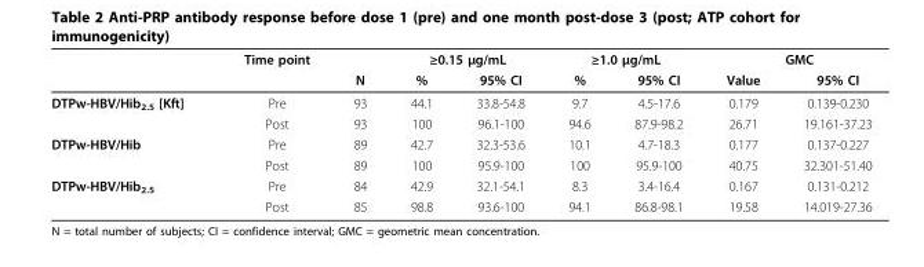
<table><thead><tr><td rowspan="2"></td><td rowspan="2">Time point</td><td rowspan="2">N</td><td colspan="2">≥0.15 μg/mL</td><td colspan="2">≥1.0 μg/mL</td><td colspan="2">GMC</td></tr><tr><td>%</td><td>95% CI</td><td>%</td><td>95% CI</td><td>Value</td><td>95% CI</td></tr></thead><tbody><tr><td rowspan="2">DTPw-HBV/Hib<sub>2.5</sub> [Kft]</td><td>Pre</td><td>93</td><td>44.1</td><td>33.8-54.8</td><td>9.7</td><td>4.5-17.6</td><td>0.179</td><td>0.139-0.230</td></tr><tr><td>Post</td><td>93</td><td>100</td><td>96.1-100</td><td>94.6</td><td>87.9-98.2</td><td>26.71</td><td>19.161-37.23</td></tr><tr><td rowspan="2">DTPw-HBV/Hib</td><td>Pre</td><td>89</td><td>42.7</td><td>32.3-53.6</td><td>10.1</td><td>4.7-18.3</td><td>0.177</td><td>0.137-0.227</td></tr><tr><td>Post</td><td>89</td><td>100</td><td>95.9-100</td><td>100</td><td>95.9-100</td><td>40.75</td><td>32.301-51.40</td></tr><tr><td rowspan="2">DTPw-HBV/Hib<sub>2.5</sub></td><td>Pre</td><td>84</td><td>42.9</td><td>32.1-54.1</td><td>8.3</td><td>3.4-16.4</td><td>0.167</td><td>0.131-0.212</td></tr><tr><td>Post</td><td>85</td><td>98.8</td><td>93.6-100</td><td>94.1</td><td>86.8-98.1</td><td>19.58</td><td>14.019-27.36</td></tr></tbody></table>